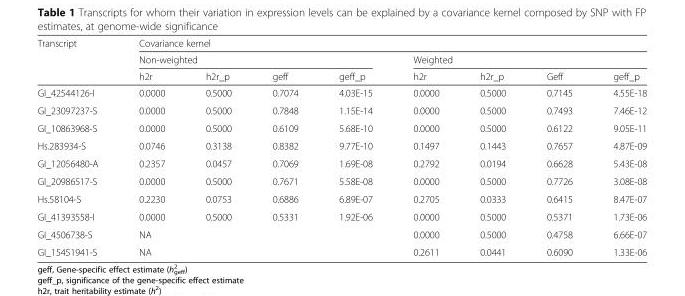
<table><thead><tr><td rowspan="3">Transcript</td><td colspan="8">Covariance kernel</td></tr><tr><td colspan="4">Non-weighted</td><td colspan="4">Weighted</td></tr><tr><td>h2r</td><td>h2r_p</td><td>geff</td><td>geff_p</td><td>h2r</td><td>h2r_p</td><td>Geff</td><td>geff_p</td></tr></thead><tbody><tr><td>GI_42544126-I</td><td>0.0000</td><td>0.5000</td><td>0.7074</td><td>4.03E-15</td><td>0.0000</td><td>0.5000</td><td>0.7145</td><td>4.55E-18</td></tr><tr><td>GI_23097237-S</td><td>0.0000</td><td>0.5000</td><td>0.7848</td><td>1.15E-14</td><td>0.0000</td><td>0.5000</td><td>0.7493</td><td>7.46E-12</td></tr><tr><td>GI_10863968-S</td><td>0.0000</td><td>0.5000</td><td>0.6109</td><td>5.68E-10</td><td>0.0000</td><td>0.5000</td><td>0.6122</td><td>9.05E-11</td></tr><tr><td>Hs.283934-S</td><td>0.0746</td><td>0.3138</td><td>0.8382</td><td>9.77E-10</td><td>0.1497</td><td>0.1443</td><td>0.7657</td><td>4.87E-09</td></tr><tr><td>GI_12056480-A</td><td>0.2357</td><td>0.0457</td><td>0.7069</td><td>1.69E-08</td><td>0.2792</td><td>0.0194</td><td>0.6628</td><td>5.43E-08</td></tr><tr><td>GI_20986517-S</td><td>0.0000</td><td>0.5000</td><td>0.7671</td><td>5.58E-08</td><td>0.0000</td><td>0.5000</td><td>0.7726</td><td>3.08E-08</td></tr><tr><td>Hs.58104-S</td><td>0.2230</td><td>0.0753</td><td>0.6886</td><td>6.89E-07</td><td>0.2705</td><td>0.0333</td><td>0.6415</td><td>8.47E-07</td></tr><tr><td>GI_41393558-I</td><td>0.0000</td><td>0.5000</td><td>0.5331</td><td>1.92E-06</td><td>0.0000</td><td>0.5000</td><td>0.5371</td><td>1.73E-06</td></tr><tr><td>GI_4506738-S</td><td colspan="4">NA</td><td>0.0000</td><td>0.5000</td><td>0.4758</td><td>6.66E-07</td></tr><tr><td>GI_15451941-S</td><td colspan="4">NA</td><td>0.2611</td><td>0.0441</td><td>0.6090</td><td>1.33E-06</td></tr></tbody></table>